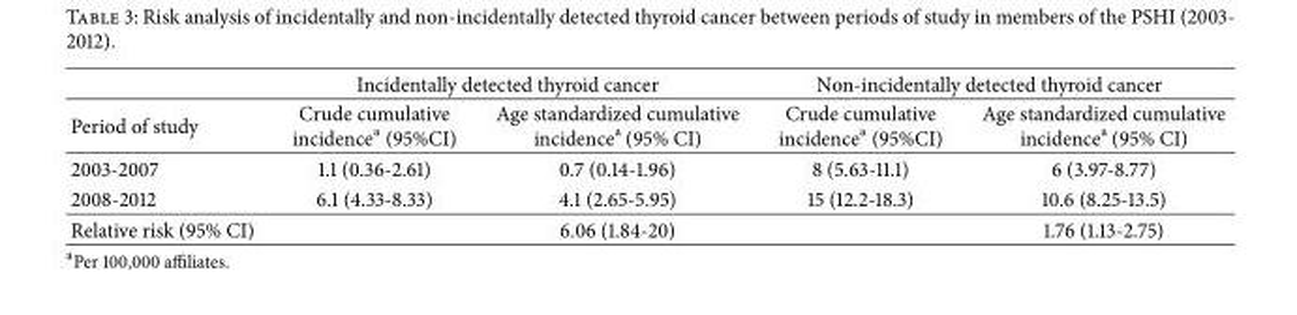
<table><thead><tr><td rowspan="2">Period of study</td><td colspan="2">Incidentally detected thyroid cancer</td><td colspan="2">Non-incidentally detected thyroid cancer</td></tr><tr><td>Crude cumulative incidence<sup>a</sup> (95%CI)</td><td>Age standardized cumulative incidence<sup>a</sup> (95% CI)</td><td>Crude cumulative incidence<sup>a</sup> (95%CI)</td><td>Age standardized cumulative incidence<sup>a</sup> (95% CI)</td></tr></thead><tbody><tr><td>2003-2007</td><td>1.1 (0.36-2.61)</td><td>0.7 (0.14-1.96)</td><td>8 (5.63-11.1)</td><td>6 (3.97-8.77)</td></tr><tr><td>2008-2012</td><td>6.1 (4.33-8.33)</td><td>4.1 (2.65-5.95)</td><td>15 (12.2-18.3)</td><td>10.6 (8.25-13.5)</td></tr><tr><td>Relative risk (95% CI)</td><td></td><td>6.06 (1.84-20)</td><td></td><td>1.76 (1.13-2.75)</td></tr></tbody></table>